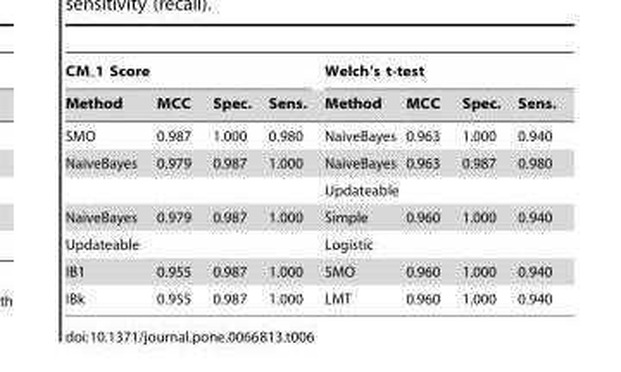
<table><thead><tr><td colspan="4">CM<sub>–</sub>1 Score</td><td colspan="4">Welch’s t-test</td></tr><tr><td>Method</td><td>MCC</td><td>Spec.</td><td>Sens.</td><td>Method</td><td>MCC</td><td>Spec.</td><td>Sens.</td></tr></thead><tbody><tr><td>SMO</td><td>0.987</td><td>1.000</td><td>0.980</td><td>NaiveBayes</td><td>0.963</td><td>1.000</td><td>0.940</td></tr><tr><td rowspan="2">NaiveBayes</td><td>0.979</td><td>0.987</td><td>1.000</td><td>NaiveBayes</td><td>0.963</td><td>0.987</td><td>0.980</td></tr><tr><td></td><td></td><td></td><td>Updateable</td><td></td><td></td><td></td></tr><tr><td>NaiveBayes</td><td>0.979</td><td>0.987</td><td>1.000</td><td>Simple</td><td>0.960</td><td>1.000</td><td>0.940</td></tr><tr><td>Updateable</td><td></td><td></td><td></td><td>Logistic</td><td></td><td></td><td></td></tr><tr><td>IB1</td><td>0.955</td><td>0.987</td><td>1.000</td><td>SMO</td><td>0.960</td><td>1.000</td><td>0.940</td></tr><tr><td>IBk</td><td>0.955</td><td>0.987</td><td>1.000</td><td>LMT</td><td>0.960</td><td>1.000</td><td>0.940</td></tr></tbody></table>